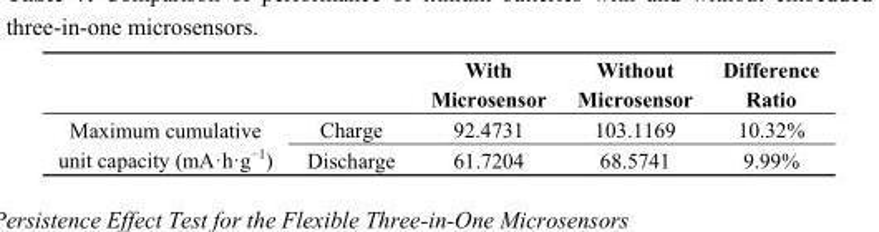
<table><thead><tr><td></td><td></td><td>With Microsensor</td><td>Without Microsensor</td><td>Difference Ratio</td></tr></thead><tbody><tr><td rowspan="2">Maximum cumulative unit capacity (mA·h·g<sup>−1</sup>)</td><td>Charge</td><td>92.4731</td><td>103.1169</td><td>10.32%</td></tr><tr><td>Discharge</td><td>61.7204</td><td>68.5741</td><td>9.99%</td></tr></tbody></table>